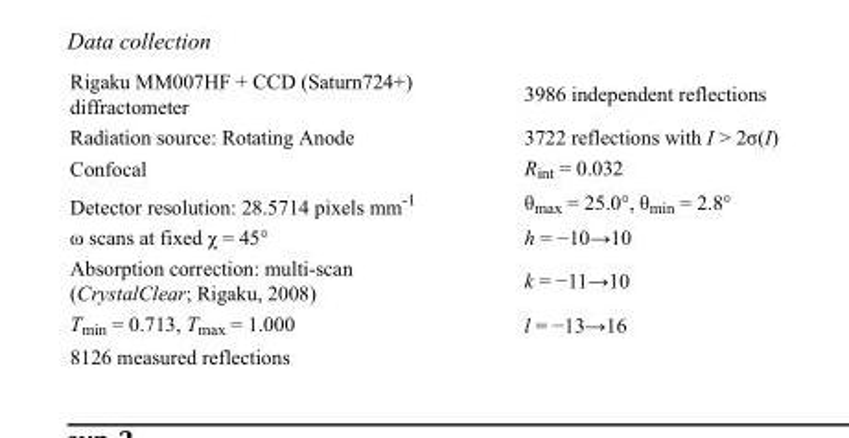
<table><tbody><tr><td>Rigaku MM007HF + CCD (Saturn724+) diffractometer</td><td>3986 independent reflections</td></tr><tr><td>Radiation source: Rotating Anode</td><td>3722 reflections with I &gt; 2σ(I)</td></tr><tr><td>Confocal</td><td>R<sub>int</sub> = 0.032</td></tr><tr><td>Detector resolution: 28.5714 pixels mm<sup>-1</sup></td><td>θ<sub>max</sub> = 25.0°, θ<sub>min</sub> = 2.8°</td></tr><tr><td>ω scans at fixed χ = 45°</td><td>h = −10→10</td></tr><tr><td>Absorption correction: multi-scan (CrystalClear; Rigaku, 2008)</td><td>k = −11→10</td></tr><tr><td>T<sub>min</sub> = 0.713, T<sub>max</sub> = 1.000</td><td>l = −13→16</td></tr><tr><td>8126 measured reflections</td><td></td></tr></tbody></table>